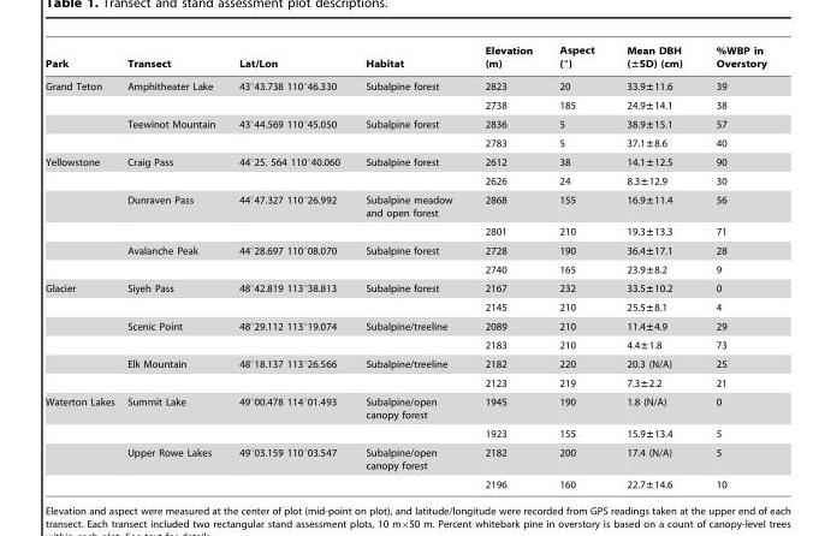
<table><thead><tr><td>Park</td><td>Transect</td><td>Lat/Lon</td><td>Habitat</td><td>Elevation (m)</td><td>Aspect (°)</td><td>Mean DBH (±SD) (cm)</td><td>%WBP in Overstory</td></tr></thead><tbody><tr><td rowspan="4">Grand Teton</td><td>Amphitheater Lake</td><td>43°43.738 110°46.330</td><td>Subalpine forest</td><td>2823</td><td>20</td><td>33.9±11.6</td><td>39</td></tr><tr><td></td><td></td><td></td><td>2738</td><td>185</td><td>24.9±14.1</td><td>38</td></tr><tr><td>Teewinot Mountain</td><td>43°44.569 110°45.050</td><td>Subalpine forest</td><td>2836</td><td>5</td><td>38.9±15.1</td><td>57</td></tr><tr><td></td><td></td><td></td><td>2783</td><td>5</td><td>37.1±8.6</td><td>40</td></tr><tr><td rowspan="6">Yellowstone</td><td>Craig Pass</td><td>44°25. 564 110°40.060</td><td>Subalpine forest</td><td>2612</td><td>38</td><td>14.1±12.5</td><td>90</td></tr><tr><td></td><td></td><td></td><td>2626</td><td>24</td><td>8.3±12.9</td><td>30</td></tr><tr><td>Dunraven Pass</td><td>44°47.327 110°26.992</td><td>Subalpine meadow and open forest</td><td>2868</td><td>155</td><td>16.9±11.4</td><td>56</td></tr><tr><td></td><td></td><td></td><td>2801</td><td>210</td><td>19.3±13.3</td><td>71</td></tr><tr><td>Avalanche Peak</td><td>44°28.697 110°08.070</td><td>Subalpine forest</td><td>2728</td><td>190</td><td>36.4±17.1</td><td>28</td></tr><tr><td></td><td></td><td></td><td>2740</td><td>165</td><td>23.9±8.2</td><td>9</td></tr><tr><td rowspan="6">Glacier</td><td>Siyeh Pass</td><td>48°42.819 113°38.813</td><td>Subalpine forest</td><td>2167</td><td>232</td><td>33.5±10.2</td><td>0</td></tr><tr><td></td><td></td><td></td><td>2145</td><td>210</td><td>25.5±8.1</td><td>4</td></tr><tr><td>Scenic Point</td><td>48°29.112 113°19.074</td><td>Subalpine/treeline</td><td>2089</td><td>210</td><td>11.4±4.9</td><td>29</td></tr><tr><td></td><td></td><td></td><td>2183</td><td>210</td><td>4.4±1.8</td><td>73</td></tr><tr><td>Elk Mountain</td><td>48°18.137 113°26.566</td><td>Subalpine/treeline</td><td>2182</td><td>220</td><td>20.3 (N/A)</td><td>25</td></tr><tr><td></td><td></td><td></td><td>2123</td><td>219</td><td>7.3±2.2</td><td>21</td></tr><tr><td rowspan="4">Waterton Lakes</td><td>Summit Lake</td><td>49°00.478 114°01.493</td><td>Subalpine/open canopy forest</td><td>1945</td><td>190</td><td>1.8 (N/A)</td><td>0</td></tr><tr><td></td><td></td><td></td><td>1923</td><td>155</td><td>15.9±13.4</td><td>5</td></tr><tr><td>Upper Rowe Lakes</td><td>49°03.159 110°03.547</td><td>Subalpine/open canopy forest</td><td>2182</td><td>200</td><td>17.4 (N/A)</td><td>5</td></tr><tr><td></td><td></td><td></td><td>2196</td><td>160</td><td>22.7±14.6</td><td>10</td></tr></tbody></table>